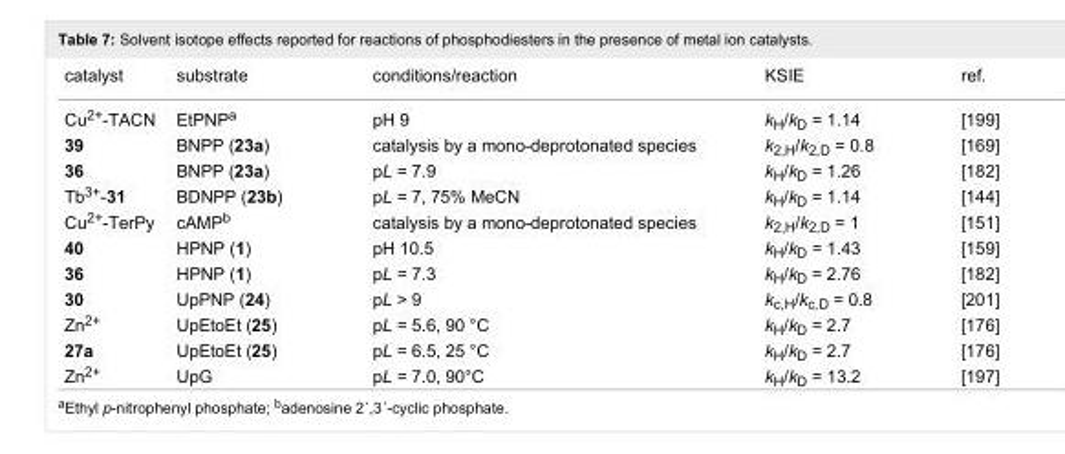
<table><tbody><tr><td>catalyst</td><td>substrate</td><td>conditions/reaction</td><td>KSIE</td><td>ref.</td></tr><tr><td>Cu<sup>2+</sup>-TACN</td><td>EtPNP<sup>a</sup></td><td>pH 9</td><td>k<sub>H</sub>/k<sub>D</sub> = 1.14</td><td>[199]</td></tr><tr><td>39</td><td>BNPP (23a)</td><td>catalysis by a mono-deprotonated species</td><td>k<sub>2,H</sub>/k<sub>2,D</sub> = 0.8</td><td>[169]</td></tr><tr><td>36</td><td>BNPP (23a)</td><td>pL = 7.9</td><td>k<sub>H</sub>/k<sub>D</sub> = 1.26</td><td>[182]</td></tr><tr><td>Tb<sup>3+</sup>-31</td><td>BDNPP (23b)</td><td>pL = 7, 75% MeCN</td><td>k<sub>H</sub>/k<sub>D</sub> = 1.14</td><td>[144]</td></tr><tr><td>Cu<sup>2+</sup>-TerPy</td><td>cAMP<sup>b</sup></td><td>catalysis by a mono-deprotonated species</td><td>k<sub>2,H</sub>/k<sub>2,D</sub> = 1</td><td>[151]</td></tr><tr><td>40</td><td>HPNP (1)</td><td>pH 10.5</td><td>k<sub>H</sub>/k<sub>D</sub> = 1.43</td><td>[159]</td></tr><tr><td>36</td><td>HPNP (1)</td><td>pL = 7.3</td><td>k<sub>H</sub>/k<sub>D</sub> = 2.76</td><td>[182]</td></tr><tr><td>30</td><td>UpPNP (24)</td><td>pL &gt; 9</td><td>k<sub>c,H</sub>/k<sub>c,D</sub> = 0.8</td><td>[201]</td></tr><tr><td>Zn<sup>2+</sup></td><td>UpEtoEt (25)</td><td>pL = 5.6, 90 °C</td><td>k<sub>H</sub>/k<sub>D</sub> = 2.7</td><td>[176]</td></tr><tr><td>27a</td><td>UpEtoEt (25)</td><td>pL = 6.5, 25 °C</td><td>k<sub>H</sub>/k<sub>D</sub> = 2.7</td><td>[176]</td></tr><tr><td>Zn<sup>2+</sup></td><td>UpG</td><td>pL = 7.0, 90°C</td><td>k<sub>H</sub>/k<sub>D</sub> = 13.2</td><td>[197]</td></tr></tbody></table>